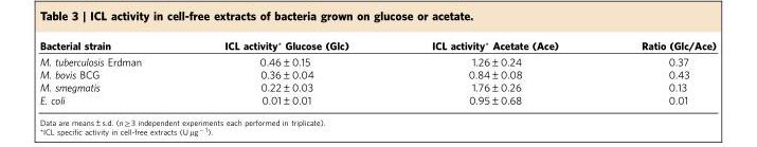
<table><thead><tr><td>Bacterial strain</td><td>ICL activity* Glucose (Glc)</td><td>ICL activity* Acetate (Ace)</td><td>Ratio (Glc/Ace)</td></tr></thead><tbody><tr><td>M. tuberculosis Erdman</td><td>0.46±0.15</td><td>1.26±0.24</td><td>0.37</td></tr><tr><td>M. bovis BCG</td><td>0.36±0.04</td><td>0.84±0.08</td><td>0.43</td></tr><tr><td>M. smegmatis</td><td>0.22±0.03</td><td>1.76±0.26</td><td>0.13</td></tr><tr><td>E. coli</td><td>0.01±0.01</td><td>0.95±0.68</td><td>0.01</td></tr></tbody></table>